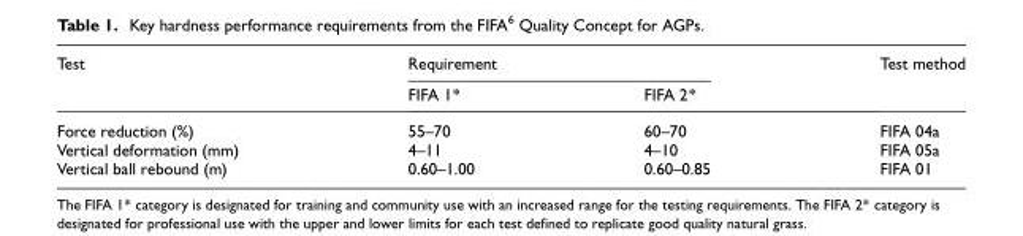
<table><thead><tr><td rowspan="2">Test</td><td colspan="2">Requirement</td><td rowspan="2">Test method</td></tr><tr><td>FIFA 1*</td><td>FIFA 2*</td></tr></thead><tbody><tr><td>Force reduction (%)</td><td>55–70</td><td>60–70</td><td>FIFA 04a</td></tr><tr><td>Vertical deformation (mm)</td><td>4–11</td><td>4–10</td><td>FIFA 05a</td></tr><tr><td>Vertical ball rebound (m)</td><td>0.60–1.00</td><td>0.60–0.85</td><td>FIFA 01</td></tr></tbody></table>